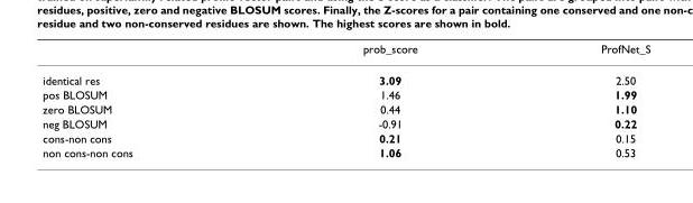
<table><thead><tr><td></td><td>prob_score</td><td>ProfNet_S</td></tr></thead><tbody><tr><td>identical res</td><td>3.09</td><td>2.50</td></tr><tr><td>pos BLOSUM</td><td>1.46</td><td>1.99</td></tr><tr><td>zero BLOSUM</td><td>0.44</td><td>1.10</td></tr><tr><td>neg BLOSUM</td><td>-0.91</td><td>0.22</td></tr><tr><td>cons-non cons</td><td>0.21</td><td>0.15</td></tr><tr><td>non cons-non cons</td><td>1.06</td><td>0.53</td></tr></tbody></table>